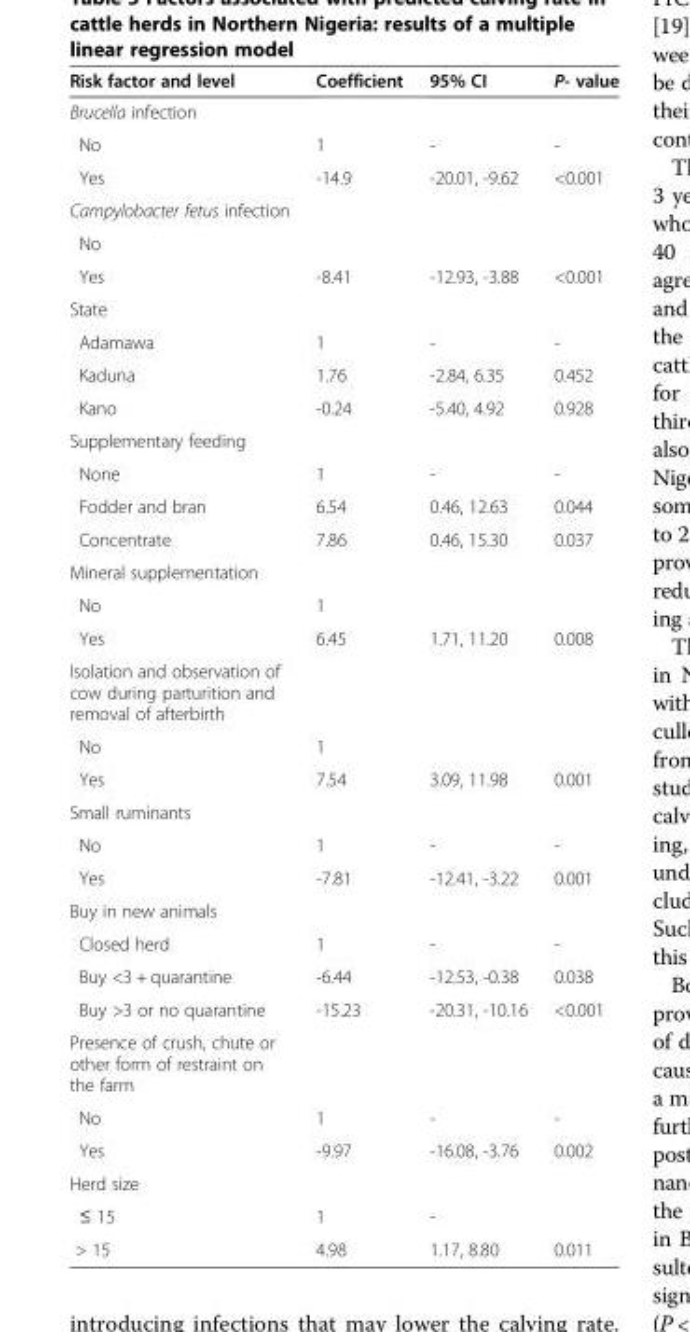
<table><thead><tr><td>Risk factor and level</td><td>Coefficient</td><td>95% CI</td><td>P- value</td></tr></thead><tbody><tr><td colspan="4">Brucella infection</td></tr><tr><td>No</td><td>1</td><td>-</td><td>-</td></tr><tr><td>Yes</td><td>-14.9</td><td>-20.01, -9.62</td><td>&lt;0.001</td></tr><tr><td colspan="4">Campylobacter fetus infection</td></tr><tr><td colspan="4">No</td></tr><tr><td>Yes</td><td>-8.41</td><td>-12.93, -3.88</td><td>&lt;0.001</td></tr><tr><td colspan="4">State</td></tr><tr><td>Adamawa</td><td>1</td><td>-</td><td>-</td></tr><tr><td>Kaduna</td><td>1.76</td><td>-2.84, 6.35</td><td>0.452</td></tr><tr><td>Kano</td><td>-0.24</td><td>-5.40, 4.92</td><td>0.928</td></tr><tr><td colspan="4">Supplementary feeding</td></tr><tr><td>None</td><td>1</td><td>-</td><td>-</td></tr><tr><td>Fodder and bran</td><td>6.54</td><td>0.46, 12.63</td><td>0.044</td></tr><tr><td>Concentrate</td><td>7.86</td><td>0.46, 15.30</td><td>0.037</td></tr><tr><td colspan="4">Mineral supplementation</td></tr><tr><td>No</td><td>1</td><td></td><td></td></tr><tr><td>Yes</td><td>6.45</td><td>1.71, 11.20</td><td>0.008</td></tr><tr><td colspan="4">Isolation and observation of cow during parturition and removal of afterbirth</td></tr><tr><td>No</td><td>1</td><td></td><td></td></tr><tr><td>Yes</td><td>7.54</td><td>3.09, 11.98</td><td>0.001</td></tr><tr><td colspan="4">Small ruminants</td></tr><tr><td>No</td><td>1</td><td>-</td><td>-</td></tr><tr><td>Yes</td><td>-7.81</td><td>-12.41, -3.22</td><td>0.001</td></tr><tr><td colspan="4">Buy in new animals</td></tr><tr><td>Closed herd</td><td>1</td><td>-</td><td>-</td></tr><tr><td>Buy &lt;3 + quarantine</td><td>-6.44</td><td>-12.53, -0.38</td><td>0.038</td></tr><tr><td>Buy &gt;3 or no quarantine</td><td>-15.23</td><td>-20.31, -10.16</td><td>&lt;0.001</td></tr><tr><td colspan="4">Presence of crush, chute or other form of restraint on the farm</td></tr><tr><td>No</td><td>1</td><td>-</td><td>-</td></tr><tr><td>Yes</td><td>-9.97</td><td>-16.08, -3.76</td><td>0.002</td></tr><tr><td colspan="4">Herd size</td></tr><tr><td>≤ 15</td><td>1</td><td>-</td><td></td></tr><tr><td>&gt; 15</td><td>4.98</td><td>1.17, 8.80</td><td>0.011</td></tr></tbody></table>